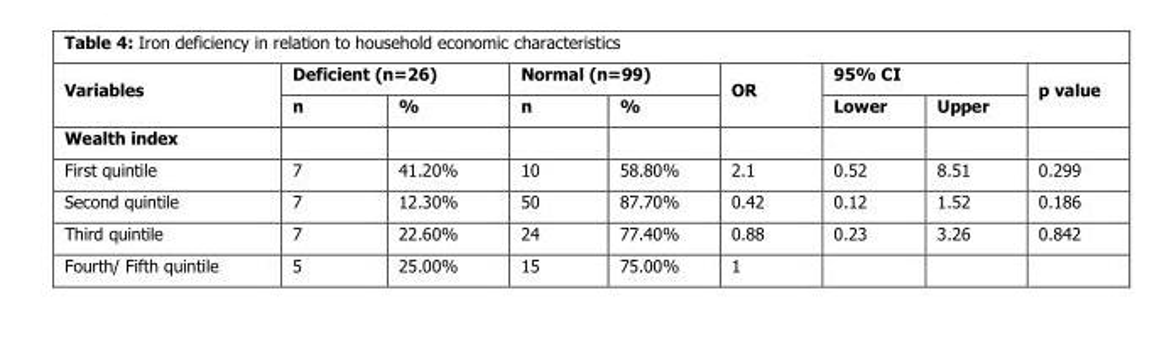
<table><thead><tr><td rowspan="2">Variables</td><td colspan="2">Deficient (n=26)</td><td colspan="2">Normal (n=99)</td><td rowspan="2">OR</td><td colspan="2">95% CI</td><td rowspan="2">p value</td></tr><tr><td>n</td><td>%</td><td>n</td><td>%</td><td>Lower</td><td>Upper</td></tr></thead><tbody><tr><td colspan="9">Wealth index</td></tr><tr><td>First quintile</td><td>7</td><td>41.20%</td><td>10</td><td>58.80%</td><td>2.1</td><td>0.52</td><td>8.51</td><td>0.299</td></tr><tr><td>Second quintile</td><td>7</td><td>12.30%</td><td>50</td><td>87.70%</td><td>0.42</td><td>0.12</td><td>1.52</td><td>0.186</td></tr><tr><td>Third quintile</td><td>7</td><td>22.60%</td><td>24</td><td>77.40%</td><td>0.88</td><td>0.23</td><td>3.26</td><td>0.842</td></tr><tr><td>Fourth/ Fifth quintile</td><td>5</td><td>25.00%</td><td>15</td><td>75.00%</td><td>1</td><td></td><td></td><td></td></tr></tbody></table>